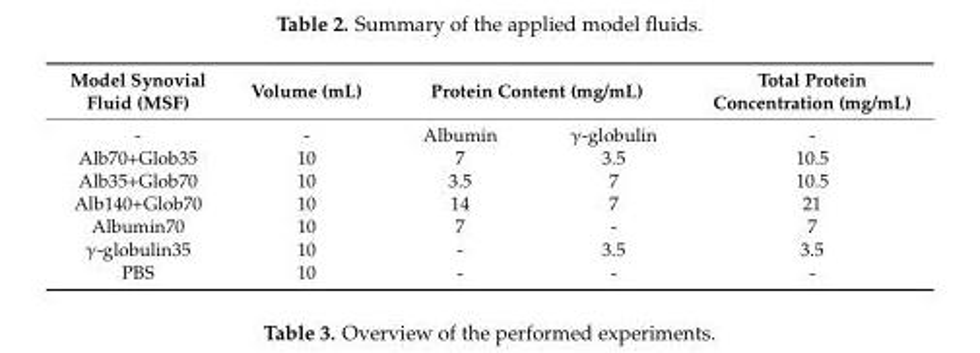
<table><thead><tr><td rowspan="2">Model Synovial Fluid (MSF) -</td><td rowspan="2">Volume (mL) -</td><td colspan="2">Protein Content (mg/mL)</td><td rowspan="2">Total Protein Concentration (mg/mL) -</td></tr><tr><td>Albumin</td><td>γ-globulin</td></tr></thead><tbody><tr><td>Alb70+Glob35</td><td>10</td><td>7</td><td>3.5</td><td>10.5</td></tr><tr><td>Alb35+Glob70</td><td>10</td><td>3.5</td><td>7</td><td>10.5</td></tr><tr><td>Alb140+Glob70</td><td>10</td><td>14</td><td>7</td><td>21</td></tr><tr><td>Albumin70</td><td>10</td><td>7</td><td>-</td><td>7</td></tr><tr><td>γ-globulin35</td><td>10</td><td>-</td><td>3.5</td><td>3.5</td></tr><tr><td>PBS</td><td>10</td><td>-</td><td>-</td><td>-</td></tr></tbody></table>